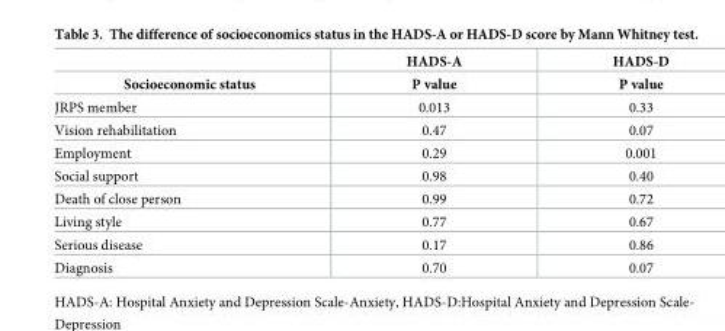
<table><thead><tr><td rowspan="2">Socioeconomic status</td><td rowspan="2">HADS-A P value</td><td rowspan="2">HADS-D P value</td></tr><tr></tr></thead><tbody><tr><td>JRPS member</td><td>0.013</td><td>0.33</td></tr><tr><td>Vision rehabilitation</td><td>0.47</td><td>0.07</td></tr><tr><td>Employment</td><td>0.29</td><td>0.001</td></tr><tr><td>Social support</td><td>0.98</td><td>0.40</td></tr><tr><td>Death of close person</td><td>0.99</td><td>0.72</td></tr><tr><td>Living style</td><td>0.77</td><td>0.67</td></tr><tr><td>Serious disease</td><td>0.17</td><td>0.86</td></tr><tr><td>Diagnosis</td><td>0.70</td><td>0.07</td></tr></tbody></table>